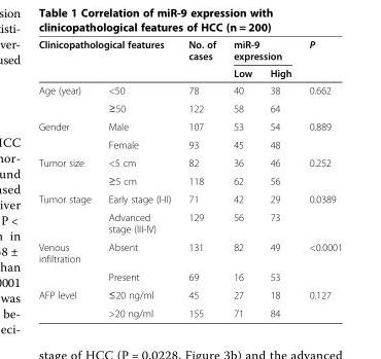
<table><thead><tr><td rowspan="2" colspan="2">Clinicopathological features</td><td rowspan="3">No. of cases 78</td><td colspan="2">miR-9 expression</td><td rowspan="3">P 0.662</td></tr><tr><td rowspan="2">Low 40</td><td rowspan="2">High 38</td></tr><tr><td>Age (year)</td><td>&lt;50</td></tr></thead><tbody><tr><td></td><td>≥50</td><td>122</td><td>58</td><td>64</td><td></td></tr><tr><td rowspan="2">Gender</td><td>Male</td><td>107</td><td>53</td><td>54</td><td>0.889</td></tr><tr><td>Female</td><td>93</td><td>45</td><td>48</td><td></td></tr><tr><td rowspan="2">Tumor size</td><td>&lt;5 cm</td><td>82</td><td>36</td><td>46</td><td>0.252</td></tr><tr><td>≥5 cm</td><td>118</td><td>62</td><td>56</td><td></td></tr><tr><td rowspan="2">Tumor stage</td><td>Early stage (I-II)</td><td>71</td><td>42</td><td>29</td><td>0.0389</td></tr><tr><td>Advanced stage (III-IV)</td><td>129</td><td>56</td><td>73</td><td></td></tr><tr><td rowspan="2">Venous infiltration</td><td>Absent</td><td>131</td><td>82</td><td>49</td><td>&lt;0.0001</td></tr><tr><td>Present</td><td>69</td><td>16</td><td>53</td><td></td></tr><tr><td rowspan="2">AFP level</td><td>≤20 ng/ml</td><td>45</td><td>27</td><td>18</td><td>0.127</td></tr><tr><td>&gt;20 ng/ml</td><td>155</td><td>71</td><td>84</td><td></td></tr></tbody></table>